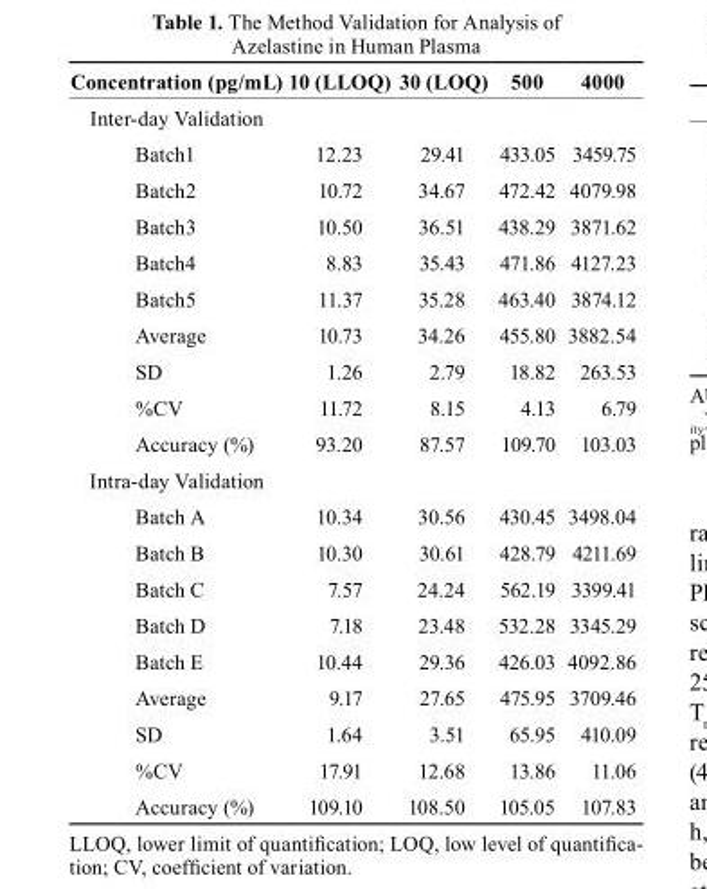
<table><thead><tr><td>concentration (pg/mL)</td><td>10 (LLOQ)</td><td>30 (LOQ)</td><td>500</td><td>4000</td></tr></thead><tbody><tr><td colspan="5">Inter-day Validation</td></tr><tr><td>Batch1</td><td>12.23</td><td>29.41</td><td>433.05</td><td>3459.75</td></tr><tr><td>Batch2</td><td>10.72</td><td>34.67</td><td>472.42</td><td>4079.98</td></tr><tr><td>Batch3</td><td>10.50</td><td>36.51</td><td>438.29</td><td>3871.62</td></tr><tr><td>Batch4</td><td>8.83</td><td>35.43</td><td>471.86</td><td>4127.23</td></tr><tr><td>Batch5</td><td>11.37</td><td>35.28</td><td>463.40</td><td>3874.12</td></tr><tr><td>Average</td><td>10.73</td><td>34.26</td><td>455.80</td><td>3882.54</td></tr><tr><td>SD</td><td>1.26</td><td>2.79</td><td>18.82</td><td>263.53</td></tr><tr><td>%CV</td><td>11.72</td><td>8.15</td><td>4.13</td><td>6.79</td></tr><tr><td>Accuracy (%)</td><td>93.20</td><td>87.57</td><td>109.70</td><td>103.03</td></tr><tr><td colspan="5">Intra-day Validation</td></tr><tr><td>Batch A</td><td>10.34</td><td>30.56</td><td>430.45</td><td>3498.04</td></tr><tr><td>Batch B</td><td>10.30</td><td>30.61</td><td>428.79</td><td>4211.69</td></tr><tr><td>Batch C</td><td>7.57</td><td>24.24</td><td>562.19</td><td>3399.41</td></tr><tr><td>Batch D</td><td>7.18</td><td>23.48</td><td>532.28</td><td>3345.29</td></tr><tr><td>Batch E</td><td>10.44</td><td>29.36</td><td>426.03</td><td>4092.86</td></tr><tr><td>Average</td><td>9.17</td><td>27.65</td><td>475.95</td><td>3709.46</td></tr><tr><td>SD</td><td>1.64</td><td>3.51</td><td>65.95</td><td>410.09</td></tr><tr><td>%CV</td><td>17.91</td><td>12.68</td><td>13.86</td><td>11.06</td></tr><tr><td>Accuracy (%)</td><td>109.10</td><td>108.50</td><td>105.05</td><td>107.83</td></tr></tbody></table>